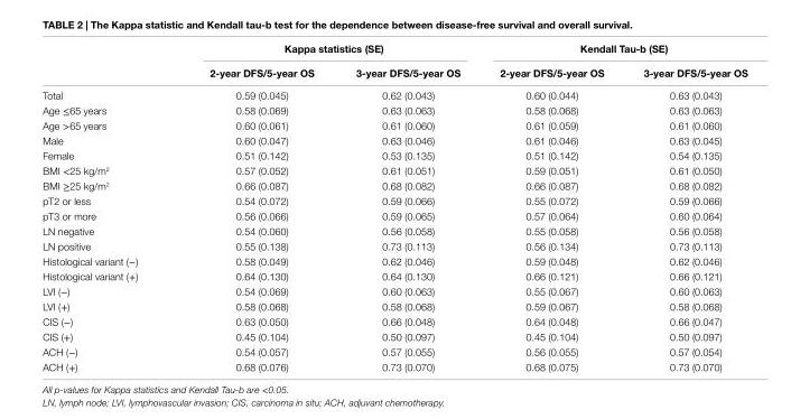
<table><thead><tr><td rowspan="2"></td><td colspan="2">Kappa statistics (se)</td><td colspan="2">Kendall Tau-b (se)</td></tr><tr><td>2-year DFs/5-year Os</td><td>3-year DFs/5-year Os</td><td>2-year DFs/5-year Os</td><td>3-year DFs/5-year Os</td></tr></thead><tbody><tr><td>Total</td><td>0.59 (0.045)</td><td>0.62 (0.043)</td><td>0.60 (0.044)</td><td>0.63 (0.043)</td></tr><tr><td>Age ≤65 years</td><td>0.58 (0.069)</td><td>0.63 (0.063)</td><td>0.58 (0.068)</td><td>0.63 (0.063)</td></tr><tr><td>Age &gt;65 years</td><td>0.60 (0.061)</td><td>0.61 (0.060)</td><td>0.61 (0.059)</td><td>0.61 (0.060)</td></tr><tr><td>Male</td><td>0.60 (0.047)</td><td>0.63 (0.046)</td><td>0.61 (0.046)</td><td>0.63 (0.045)</td></tr><tr><td>Female</td><td>0.51 (0.142)</td><td>0.53 (0.135)</td><td>0.51 (0.142)</td><td>0.54 (0.135)</td></tr><tr><td>BMI &lt;25 kg/m<sup>2</sup></td><td>0.57 (0.052)</td><td>0.61 (0.051)</td><td>0.59 (0.051)</td><td>0.61 (0.050)</td></tr><tr><td>BMI ≥25 kg/m<sup>2</sup></td><td>0.66 (0.087)</td><td>0.68 (0.082)</td><td>0.66 (0.087)</td><td>0.68 (0.082)</td></tr><tr><td>pT2 or less</td><td>0.54 (0.072)</td><td>0.59 (0.066)</td><td>0.55 (0.072)</td><td>0.59 (0.066)</td></tr><tr><td>pT3 or more</td><td>0.56 (0.066)</td><td>0.59 (0.065)</td><td>0.57 (0.064)</td><td>0.60 (0.064)</td></tr><tr><td>LN negative</td><td>0.54 (0.060)</td><td>0.56 (0.058)</td><td>0.55 (0.058)</td><td>0.56 (0.058)</td></tr><tr><td>LN positive</td><td>0.55 (0.138)</td><td>0.73 (0.113)</td><td>0.56 (0.134)</td><td>0.73 (0.113)</td></tr><tr><td>Histological variant (−)</td><td>0.58 (0.049)</td><td>0.62 (0.046)</td><td>0.59 (0.048)</td><td>0.62 (0.046)</td></tr><tr><td>Histological variant (+)</td><td>0.64 (0.130)</td><td>0.64 (0.130)</td><td>0.66 (0.121)</td><td>0.66 (0.121)</td></tr><tr><td>LVI (−)</td><td>0.54 (0.069)</td><td>0.60 (0.063)</td><td>0.55 (0.067)</td><td>0.60 (0.063)</td></tr><tr><td>LVI (+)</td><td>0.58 (0.068)</td><td>0.58 (0.068)</td><td>0.59 (0.067)</td><td>0.58 (0.068)</td></tr><tr><td>CIS (−)</td><td>0.63 (0.050)</td><td>0.66 (0.048)</td><td>0.64 (0.048)</td><td>0.66 (0.047)</td></tr><tr><td>CIS (+)</td><td>0.45 (0.104)</td><td>0.50 (0.097)</td><td>0.45 (0.104)</td><td>0.50 (0.097)</td></tr><tr><td>ACH (−)</td><td>0.54 (0.057)</td><td>0.57 (0.055)</td><td>0.56 (0.055)</td><td>0.57 (0.054)</td></tr><tr><td>ACH (+)</td><td>0.68 (0.076)</td><td>0.73 (0.070)</td><td>0.68 (0.075)</td><td>0.73 (0.070)</td></tr></tbody></table>